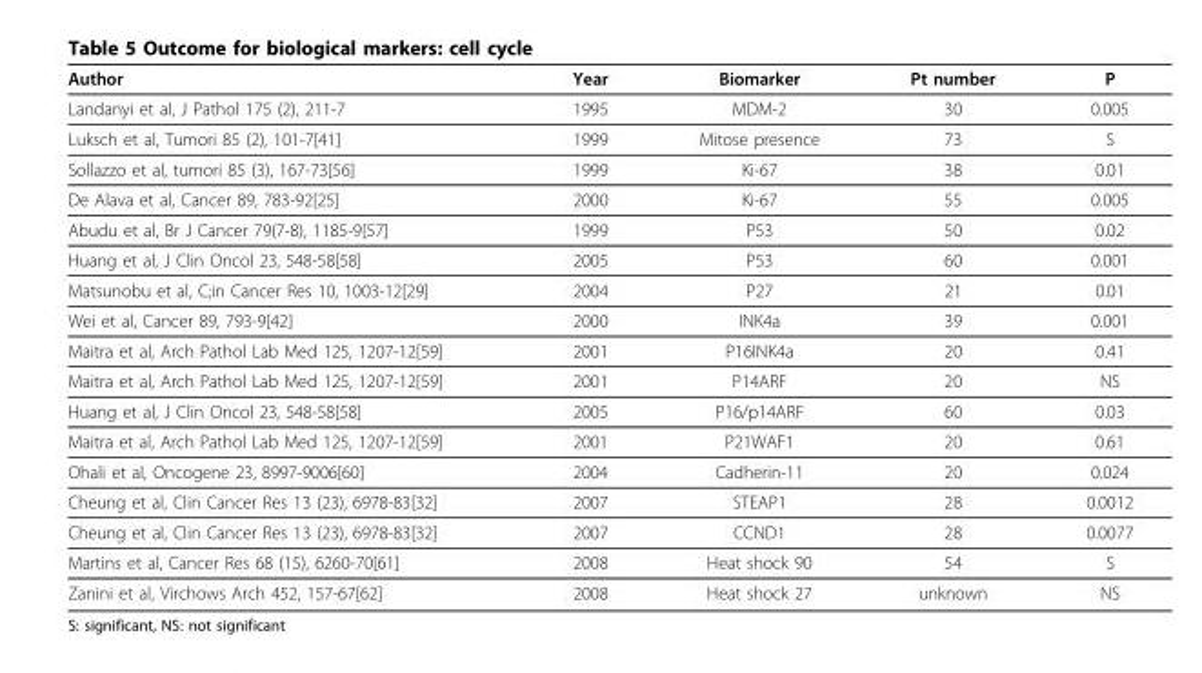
<table><thead><tr><td>Author</td><td>Year</td><td>Biomarker</td><td>Pt number</td><td>P</td></tr></thead><tbody><tr><td>Landanyi et al, J Pathol 175 (2), 211-7</td><td>1995</td><td>MDM-2</td><td>30</td><td>0.005</td></tr><tr><td>Luksch et al, Tumori 85 (2), 101-7[41]</td><td>1999</td><td>Mitose presence</td><td>73</td><td>S</td></tr><tr><td>Sollazzo et al, tumori 85 (3), 167-73[56]</td><td>1999</td><td>Ki-67</td><td>38</td><td>0.01</td></tr><tr><td>De Alava et al, Cancer 89, 783-92[25]</td><td>2000</td><td>Ki-67</td><td>55</td><td>0.005</td></tr><tr><td>Abudu et al, Br J Cancer 79(7-8), 1185-9[57]</td><td>1999</td><td>P53</td><td>50</td><td>0.02</td></tr><tr><td>Huang et al, J Clin Oncol 23, 548-58[58]</td><td>2005</td><td>P53</td><td>60</td><td>0.001</td></tr><tr><td>Matsunobu et al, C;in Cancer Res 10, 1003-12[29]</td><td>2004</td><td>P27</td><td>21</td><td>0.01</td></tr><tr><td>Wei et al, Cancer 89, 793-9[42]</td><td>2000</td><td>INK4a</td><td>39</td><td>0.001</td></tr><tr><td>Maitra et al, Arch Pathol Lab Med 125, 1207-12[59]</td><td>2001</td><td>P16INK4a</td><td>20</td><td>0.41</td></tr><tr><td>Maitra et al, Arch Pathol Lab Med 125, 1207-12[59]</td><td>2001</td><td>P14ARF</td><td>20</td><td>NS</td></tr><tr><td>Huang et al, J Clin Oncol 23, 548-58[58]</td><td>2005</td><td>P16/p14ARF</td><td>60</td><td>0.03</td></tr><tr><td>Maitra et al, Arch Pathol Lab Med 125, 1207-12[59]</td><td>2001</td><td>P21WAF1</td><td>20</td><td>0.61</td></tr><tr><td>Ohali et al, Oncogene 23, 8997-9006[60]</td><td>2004</td><td>Cadherin-11</td><td>20</td><td>0.024</td></tr><tr><td>Cheung et al, Clin Cancer Res 13 (23), 6978-83[32]</td><td>2007</td><td>STEAP1</td><td>28</td><td>0.0012</td></tr><tr><td>Cheung et al, Clin Cancer Res 13 (23), 6978-83[32]</td><td>2007</td><td>CCND1</td><td>28</td><td>0.0077</td></tr><tr><td>Martins et al, Cancer Res 68 (15), 6260-70[61]</td><td>2008</td><td>Heat shock 90</td><td>54</td><td>S</td></tr><tr><td>Zanini et al, Virchows Arch 452, 157-67[62]</td><td>2008</td><td>Heat shock 27</td><td>unknown</td><td>NS</td></tr></tbody></table>